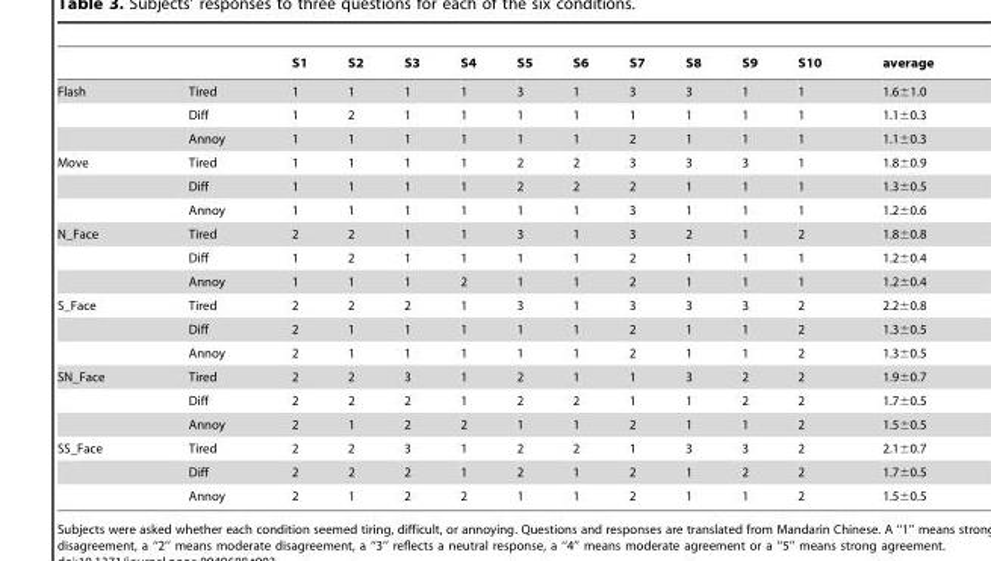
<table><thead><tr><td></td><td></td><td>S1</td><td>S2</td><td>S3</td><td>S4</td><td>S5</td><td>S6</td><td>S7</td><td>S8</td><td>S9</td><td>S10</td><td>average</td></tr></thead><tbody><tr><td rowspan="3">Flash</td><td>Tired</td><td>1</td><td>1</td><td>1</td><td>1</td><td>3</td><td>1</td><td>3</td><td>3</td><td>1</td><td>1</td><td>1.6±1.0</td></tr><tr><td>Diff</td><td>1</td><td>2</td><td>1</td><td>1</td><td>1</td><td>1</td><td>1</td><td>1</td><td>1</td><td>1</td><td>1.1±0.3</td></tr><tr><td>Annoy</td><td>1</td><td>1</td><td>1</td><td>1</td><td>1</td><td>1</td><td>2</td><td>1</td><td>1</td><td>1</td><td>1.1±0.3</td></tr><tr><td rowspan="3">Move</td><td>Tired</td><td>1</td><td>1</td><td>1</td><td>1</td><td>2</td><td>2</td><td>3</td><td>3</td><td>3</td><td>1</td><td>1.8±0.9</td></tr><tr><td>Diff</td><td>1</td><td>1</td><td>1</td><td>1</td><td>2</td><td>2</td><td>2</td><td>1</td><td>1</td><td>1</td><td>1.3±0.5</td></tr><tr><td>Annoy</td><td>1</td><td>1</td><td>1</td><td>1</td><td>1</td><td>1</td><td>3</td><td>1</td><td>1</td><td>1</td><td>1.2±0.6</td></tr><tr><td rowspan="3">N_Face</td><td>Tired</td><td>2</td><td>2</td><td>1</td><td>1</td><td>3</td><td>1</td><td>3</td><td>2</td><td>1</td><td>2</td><td>1.8±0.8</td></tr><tr><td>Diff</td><td>1</td><td>2</td><td>1</td><td>1</td><td>1</td><td>1</td><td>2</td><td>1</td><td>1</td><td>1</td><td>1.2±0.4</td></tr><tr><td>Annoy</td><td>1</td><td>1</td><td>1</td><td>2</td><td>1</td><td>1</td><td>2</td><td>1</td><td>1</td><td>1</td><td>1.2±0.4</td></tr><tr><td rowspan="3">S_Face</td><td>Tired</td><td>2</td><td>2</td><td>2</td><td>1</td><td>3</td><td>1</td><td>3</td><td>3</td><td>3</td><td>2</td><td>2.2±0.8</td></tr><tr><td>Diff</td><td>2</td><td>1</td><td>1</td><td>1</td><td>1</td><td>1</td><td>2</td><td>1</td><td>1</td><td>2</td><td>1.3±0.5</td></tr><tr><td>Annoy</td><td>2</td><td>1</td><td>1</td><td>1</td><td>1</td><td>1</td><td>2</td><td>1</td><td>1</td><td>2</td><td>1.3±0.5</td></tr><tr><td rowspan="3">SN_Face</td><td>Tired</td><td>2</td><td>2</td><td>3</td><td>1</td><td>2</td><td>1</td><td>1</td><td>3</td><td>2</td><td>2</td><td>1.9±0.7</td></tr><tr><td>Diff</td><td>2</td><td>2</td><td>2</td><td>1</td><td>2</td><td>2</td><td>1</td><td>1</td><td>2</td><td>2</td><td>1.7±0.5</td></tr><tr><td>Annoy</td><td>2</td><td>1</td><td>2</td><td>2</td><td>1</td><td>1</td><td>2</td><td>1</td><td>1</td><td>2</td><td>1.5±0.5</td></tr><tr><td rowspan="3">SS_Face</td><td>Tired</td><td>2</td><td>2</td><td>3</td><td>1</td><td>2</td><td>2</td><td>1</td><td>3</td><td>3</td><td>2</td><td>2.1±0.7</td></tr><tr><td>Diff</td><td>2</td><td>2</td><td>2</td><td>1</td><td>2</td><td>1</td><td>2</td><td>1</td><td>2</td><td>2</td><td>1.7±0.5</td></tr><tr><td>Annoy</td><td>2</td><td>1</td><td>2</td><td>2</td><td>1</td><td>1</td><td>2</td><td>1</td><td>1</td><td>2</td><td>1.5±0.5</td></tr></tbody></table>